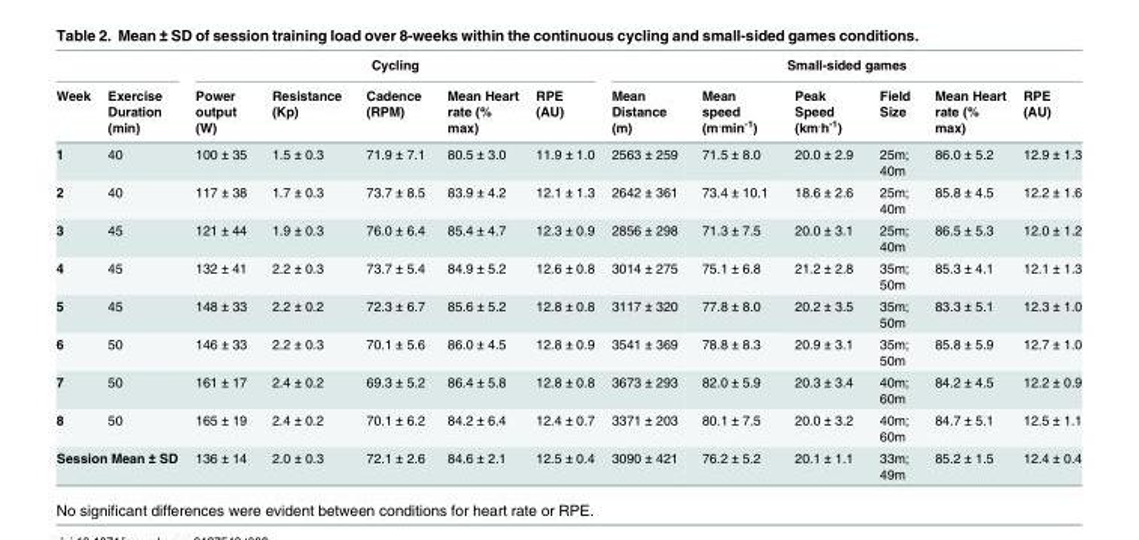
<table><thead><tr><td rowspan="2">Week</td><td rowspan="2">Exercise Duration (min)</td><td colspan="5">Cycling</td><td colspan="6">Small-sided games</td></tr><tr><td>Power output (W)</td><td>Resistance (Kp)</td><td>Cadence (RPM)</td><td>Mean Heart rate (% max)</td><td>RPE (AU)</td><td>Mean Distance (m)</td><td>Mean speed (m<sup>.</sup>min<sup>-1</sup>)</td><td>Peak Speed (km<sup>.</sup>h<sup>-1</sup>)</td><td>Field Size</td><td>Mean Heart rate (% max)</td><td>RPE (AU)</td></tr></thead><tbody><tr><td>1</td><td>40</td><td>100 ± 35</td><td>1.5 ± 0.3</td><td>71.9 ± 7.1</td><td>80.5 ± 3.0</td><td>11.9 ± 1.0</td><td>2563 ± 259</td><td>71.5 ± 8.0</td><td>20.0 ± 2.9</td><td>25m; 40m</td><td>86.0 ± 5.2</td><td>12.9 ± 1.3</td></tr><tr><td>2</td><td>40</td><td>117 ± 38</td><td>1.7 ± 0.3</td><td>73.7 ± 8.5</td><td>83.9 ± 4.2</td><td>12.1 ± 1.3</td><td>2642 ± 361</td><td>73.4 ± 10.1</td><td>18.6 ± 2.6</td><td>25m; 40m</td><td>85.8 ± 4.5</td><td>12.2 ± 1.6</td></tr><tr><td>3</td><td>45</td><td>121 ± 44</td><td>1.9 ± 0.3</td><td>76.0 ± 6.4</td><td>85.4 ± 4.7</td><td>12.3 ± 0.9</td><td>2856 ± 298</td><td>71.3 ± 7.5</td><td>20.0 ± 3.1</td><td>25m; 40m</td><td>86.5 ± 5.3</td><td>12.0 ± 1.2</td></tr><tr><td>4</td><td>45</td><td>132 ± 41</td><td>2.2 ± 0.3</td><td>73.7 ± 5.4</td><td>84.9 ± 5.2</td><td>12.6 ± 0.8</td><td>3014 ± 275</td><td>75.1 ± 6.8</td><td>21.2 ± 2.8</td><td>35m; 50m</td><td>85.3 ± 4.1</td><td>12.1 ± 1.3</td></tr><tr><td>5</td><td>45</td><td>148 ± 33</td><td>2.2 ± 0.2</td><td>72.3 ± 6.7</td><td>85.6 ± 5.2</td><td>12.8 ± 0.8</td><td>3117 ± 320</td><td>77.8 ± 8.0</td><td>20.2 ± 3.5</td><td>35m; 50m</td><td>83.3 ± 5.1</td><td>12.3 ± 1.0</td></tr><tr><td>6</td><td>50</td><td>146 ± 33</td><td>2.2 ± 0.3</td><td>70.1 ± 5.6</td><td>86.0 ± 4.5</td><td>12.8 ± 0.9</td><td>3541 ± 369</td><td>78.8 ± 8.3</td><td>20.9 ± 3.1</td><td>35m; 50m</td><td>85.8 ± 5.9</td><td>12.7 ± 1.0</td></tr><tr><td>7</td><td>50</td><td>161 ± 17</td><td>2.4 ± 0.2</td><td>69.3 ± 5.2</td><td>86.4 ± 5.8</td><td>12.8 ± 0.8</td><td>3673 ± 293</td><td>82.0 ± 5.9</td><td>20.3 ± 3.4</td><td>40m; 60m</td><td>84.2 ± 4.5</td><td>12.2 ± 0.9</td></tr><tr><td>8</td><td>50</td><td>165 ± 19</td><td>2.4 ± 0.2</td><td>70.1 ± 6.2</td><td>84.2 ± 6.4</td><td>12.4 ± 0.7</td><td>3371 ± 203</td><td>80.1 ± 7.5</td><td>20.0 ± 3.2</td><td>40m; 60m</td><td>84.7 ± 5.1</td><td>12.5 ± 1.1</td></tr><tr><td colspan="2">Session Mean ± SD</td><td>136 ± 14</td><td>2.0 ± 0.3</td><td>72.1 ± 2.6</td><td>84.6 ± 2.1</td><td>12.5 ± 0.4</td><td>3090 ± 421</td><td>76.2 ± 5.2</td><td>20.1 ± 1.1</td><td>33m; 49m</td><td>85.2 ± 1.5</td><td>12.4 ± 0.4</td></tr></tbody></table>